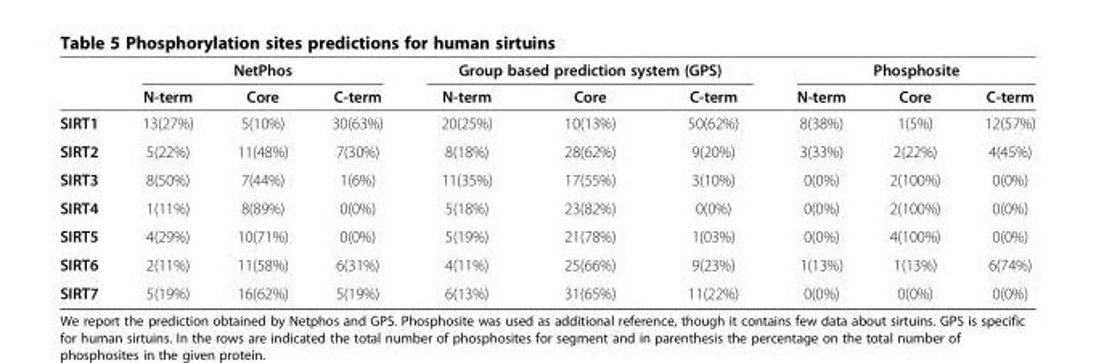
<table><thead><tr><td rowspan="2"></td><td colspan="3">NetPhos</td><td colspan="3">Group based prediction system (GPS)</td><td colspan="3">Phosphosite</td></tr><tr><td>N-term</td><td>Core</td><td>C-term</td><td>N-term</td><td>Core</td><td>C-term</td><td>N-term</td><td>Core</td><td>C-term</td></tr></thead><tbody><tr><td>SIRT1</td><td>13(27%)</td><td>5(10%)</td><td>30(63%)</td><td>20(25%)</td><td>10(13%)</td><td>50(62%)</td><td>8(38%)</td><td>1(5%)</td><td>12(57%)</td></tr><tr><td>SIRT2</td><td>5(22%)</td><td>11(48%)</td><td>7(30%)</td><td>8(18%)</td><td>28(62%)</td><td>9(20%)</td><td>3(33%)</td><td>2(22%)</td><td>4(45%)</td></tr><tr><td>SIRT3</td><td>8(50%)</td><td>7(44%)</td><td>1(6%)</td><td>11(35%)</td><td>17(55%)</td><td>3(10%)</td><td>0(0%)</td><td>2(100%)</td><td>0(0%)</td></tr><tr><td>SIRT4</td><td>1(11%)</td><td>8(89%)</td><td>0(0%)</td><td>5(18%)</td><td>23(82%)</td><td>0(0%)</td><td>0(0%)</td><td>2(100%)</td><td>0(0%)</td></tr><tr><td>SIRT5</td><td>4(29%)</td><td>10(71%)</td><td>0(0%)</td><td>5(19%)</td><td>21(78%)</td><td>1(03%)</td><td>0(0%)</td><td>4(100%)</td><td>0(0%)</td></tr><tr><td>SIRT6</td><td>2(11%)</td><td>11(58%)</td><td>6(31%)</td><td>4(11%)</td><td>25(66%)</td><td>9(23%)</td><td>1(13%)</td><td>1(13%)</td><td>6(74%)</td></tr><tr><td>SIRT7</td><td>5(19%)</td><td>16(62%)</td><td>5(19%)</td><td>6(13%)</td><td>31(65%)</td><td>11(22%)</td><td>0(0%)</td><td>0(0%)</td><td>0(0%)</td></tr></tbody></table>